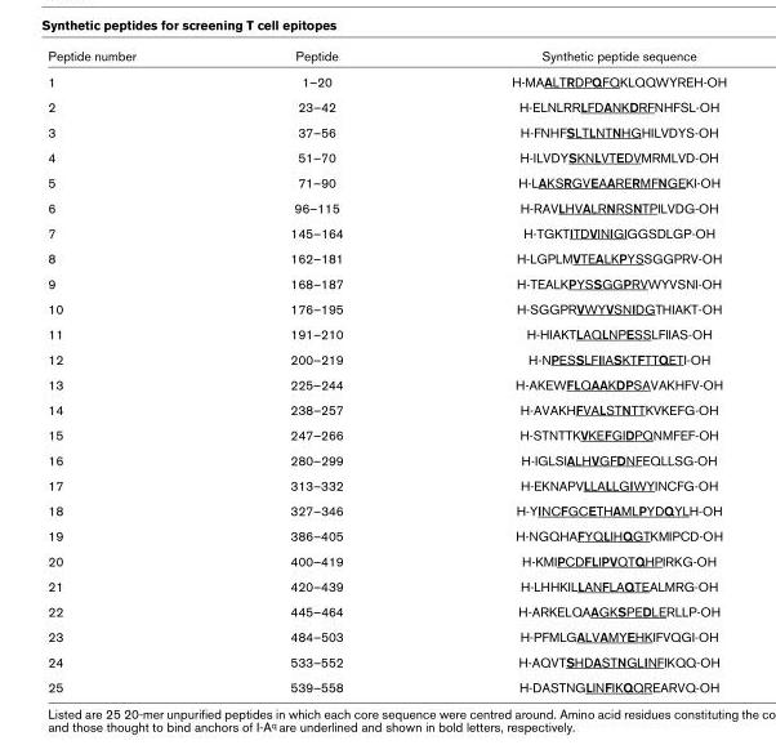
<table><thead><tr><td>Peptide number</td><td>Peptide</td><td>Synthetic peptide sequence</td></tr></thead><tbody><tr><td>1</td><td>1–20</td><td>H-MAALTRDPQFQKLQQWYREH-OH</td></tr><tr><td>2</td><td>23–42</td><td>H-ELNLRRLFDANKDRFNHFSL-OH</td></tr><tr><td>3</td><td>37–56</td><td>H-FNHFSLTLNTNHGHILVDYS-OH</td></tr><tr><td>4</td><td>51–70</td><td>H-ILVDYSKNLVTEDVMRMLVD-OH</td></tr><tr><td>5</td><td>71–90</td><td>H-LAKSRGVEAARERMFNGEKI-OH</td></tr><tr><td>6</td><td>96–115</td><td>H-RAVLHVALRNRSNTPILVDG-OH</td></tr><tr><td>7</td><td>145–164</td><td>H-TGKTITDVINIGIGGSDLGP-OH</td></tr><tr><td>8</td><td>162–181</td><td>H-LGPLMVTEALKPYSSGGPRV-OH</td></tr><tr><td>9</td><td>168–187</td><td>H-TEALKPYSSGGPRVWYVSNI-OH</td></tr><tr><td>10</td><td>176–195</td><td>H-SGGPRVWYVSNIDGTHIAKT-OH</td></tr><tr><td>11</td><td>191–210</td><td>H-HIAKTLAQLNPESSLFIIAS-OH</td></tr><tr><td>12</td><td>200–219</td><td>H-NPESSLFIIASKTFTTQETI-OH</td></tr><tr><td>13</td><td>225–244</td><td>H-AKEWFLQAAKDPSAVAKHFV-OH</td></tr><tr><td>14</td><td>238–257</td><td>H-AVAKHFVALSTNTTKVKEFG-OH</td></tr><tr><td>15</td><td>247–266</td><td>H-STNTTKVKEFGIDPQNMFEF-OH</td></tr><tr><td>16</td><td>280–299</td><td>H-IGLSIALHVGFDNFEQLLSG-OH</td></tr><tr><td>17</td><td>313–332</td><td>H-EKNAPVLLALLGIWYINCFG-OH</td></tr><tr><td>18</td><td>327–346</td><td>H-YINCFGCETHAMLPYDQYLH-OH</td></tr><tr><td>19</td><td>386–405</td><td>H-NGQHAFYQLIHQGTKMIPCD-OH</td></tr><tr><td>20</td><td>400–419</td><td>H-KMIPCDFLIPVQTQHPIRKG-OH</td></tr><tr><td>21</td><td>420–439</td><td>H-LHHKILLANFLAQTEALMRG-OH</td></tr><tr><td>22</td><td>445–464</td><td>H-ARKELQAAGKSPEDLERLLP-OH</td></tr><tr><td>23</td><td>484–503</td><td>H-PFMLGALVAMYEHKIFVQGI-OH</td></tr><tr><td>24</td><td>533–552</td><td>H-AQVTSHDASTNGLINFIKQQ-OH</td></tr><tr><td>25</td><td>539–558</td><td>H-DASTNGLINFIKQQREARVQ-OH</td></tr></tbody></table>